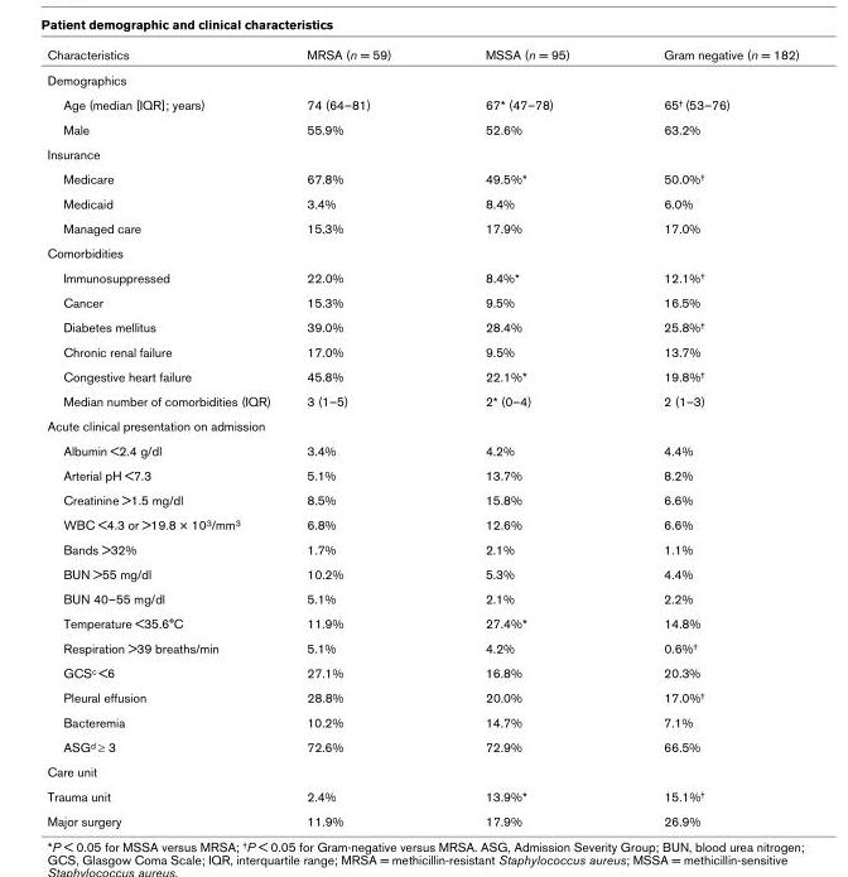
<table><thead><tr><td>Characteristics</td><td>MRSA (n = 59)</td><td>MSSA (n = 95)</td><td>Gram negative (n = 182)</td></tr></thead><tbody><tr><td colspan="4">Demographics</td></tr><tr><td>Age (median [IQR]; years)</td><td>74 (64–81)</td><td>67* (47–78)</td><td>65† (53–76)</td></tr><tr><td>Male</td><td>55.9%</td><td>52.6%</td><td>63.2%</td></tr><tr><td colspan="4">Insurance</td></tr><tr><td>Medicare</td><td>67.8%</td><td>49.5%*</td><td>50.0%†</td></tr><tr><td>Medicaid</td><td>3.4%</td><td>8.4%</td><td>6.0%</td></tr><tr><td>Managed care</td><td>15.3%</td><td>17.9%</td><td>17.0%</td></tr><tr><td colspan="4">Comorbidities</td></tr><tr><td>Immunosuppressed</td><td>22.0%</td><td>8.4%*</td><td>12.1%†</td></tr><tr><td>Cancer</td><td>15.3%</td><td>9.5%</td><td>16.5%</td></tr><tr><td>Diabetes mellitus</td><td>39.0%</td><td>28.4%</td><td>25.8%†</td></tr><tr><td>Chronic renal failure</td><td>17.0%</td><td>9.5%</td><td>13.7%</td></tr><tr><td>Congestive heart failure</td><td>45.8%</td><td>22.1%*</td><td>19.8%†</td></tr><tr><td>Median number of comorbidities (IQR)</td><td>3 (1–5)</td><td>2* (0–4)</td><td>2 (1–3)</td></tr><tr><td colspan="4">Acute clinical presentation on admission</td></tr><tr><td>Albumin &lt;2.4 g/dl</td><td>3.4%</td><td>4.2%</td><td>4.4%</td></tr><tr><td>Arterial pH &lt;7.3</td><td>5.1%</td><td>13.7%</td><td>8.2%</td></tr><tr><td>Creatinine &gt;1.5 mg/dl</td><td>8.5%</td><td>15.8%</td><td>6.6%</td></tr><tr><td>WBC &lt;4.3 or &gt;19.8 × 103/mm3</td><td>6.8%</td><td>12.6%</td><td>6.6%</td></tr><tr><td>Bands &gt;32%</td><td>1.7%</td><td>2.1%</td><td>1.1%</td></tr><tr><td>BUN &gt;55 mg/dl</td><td>10.2%</td><td>5.3%</td><td>4.4%</td></tr><tr><td>BUN 40–55 mg/dl</td><td>5.1%</td><td>2.1%</td><td>2.2%</td></tr><tr><td>Temperature &lt;35.6°C</td><td>11.9%</td><td>27.4%*</td><td>14.8%</td></tr><tr><td>Respiration &gt;39 breaths/min</td><td>5.1%</td><td>4.2%</td><td>0.6%†</td></tr><tr><td>GCSc &lt;6</td><td>27.1%</td><td>16.8%</td><td>20.3%</td></tr><tr><td>Pleural effusion</td><td>28.8%</td><td>20.0%</td><td>17.0%†</td></tr><tr><td>Bacteremia</td><td>10.2%</td><td>14.7%</td><td>7.1%</td></tr><tr><td>ASGd ≥ 3</td><td>72.6%</td><td>72.9%</td><td>66.5%</td></tr><tr><td colspan="4">Care unit</td></tr><tr><td>Trauma unit</td><td>2.4%</td><td>13.9%*</td><td>15.1%†</td></tr><tr><td>Major surgery</td><td>11.9%</td><td>17.9%</td><td>26.9%</td></tr></tbody></table>